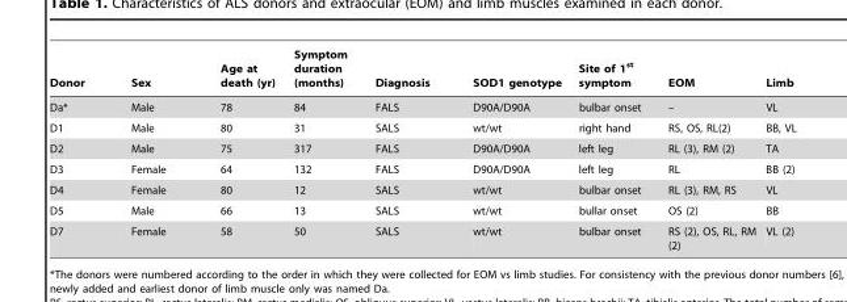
<table><thead><tr><td>Donor</td><td>Sex</td><td>Age at death (yr)</td><td>Symptom duration (months)</td><td>Diagnosis</td><td>SOD1 genotype</td><td>Site of 1<sup>st</sup> symptom</td><td>EOM</td><td>Limb</td></tr></thead><tbody><tr><td>Da*</td><td>Male</td><td>78</td><td>84</td><td>FALS</td><td>D90A/D90A</td><td>bulbar onset</td><td>–</td><td>VL</td></tr><tr><td>D1</td><td>Male</td><td>80</td><td>31</td><td>SALS</td><td>wt/wt</td><td>right hand</td><td>RS, OS, RL(2)</td><td>BB, VL</td></tr><tr><td>D2</td><td>Male</td><td>75</td><td>317</td><td>FALS</td><td>D90A/D90A</td><td>left leg</td><td>RL (3), RM (2)</td><td>TA</td></tr><tr><td>D3</td><td>Female</td><td>64</td><td>132</td><td>FALS</td><td>D90A/D90A</td><td>left leg</td><td>RL</td><td>BB (2)</td></tr><tr><td>D4</td><td>Female</td><td>80</td><td>12</td><td>SALS</td><td>wt/wt</td><td>bulbar onset</td><td>RL (3), RM, RS</td><td>VL</td></tr><tr><td>D5</td><td>Male</td><td>66</td><td>13</td><td>SALS</td><td>wt/wt</td><td>bullar onset</td><td>OS (2)</td><td>BB</td></tr><tr><td>D7</td><td>Female</td><td>58</td><td>50</td><td>SALS</td><td>wt/wt</td><td>bulbar onset</td><td>RS (2), OS, RL, RM (2)</td><td>VL (2)</td></tr></tbody></table>